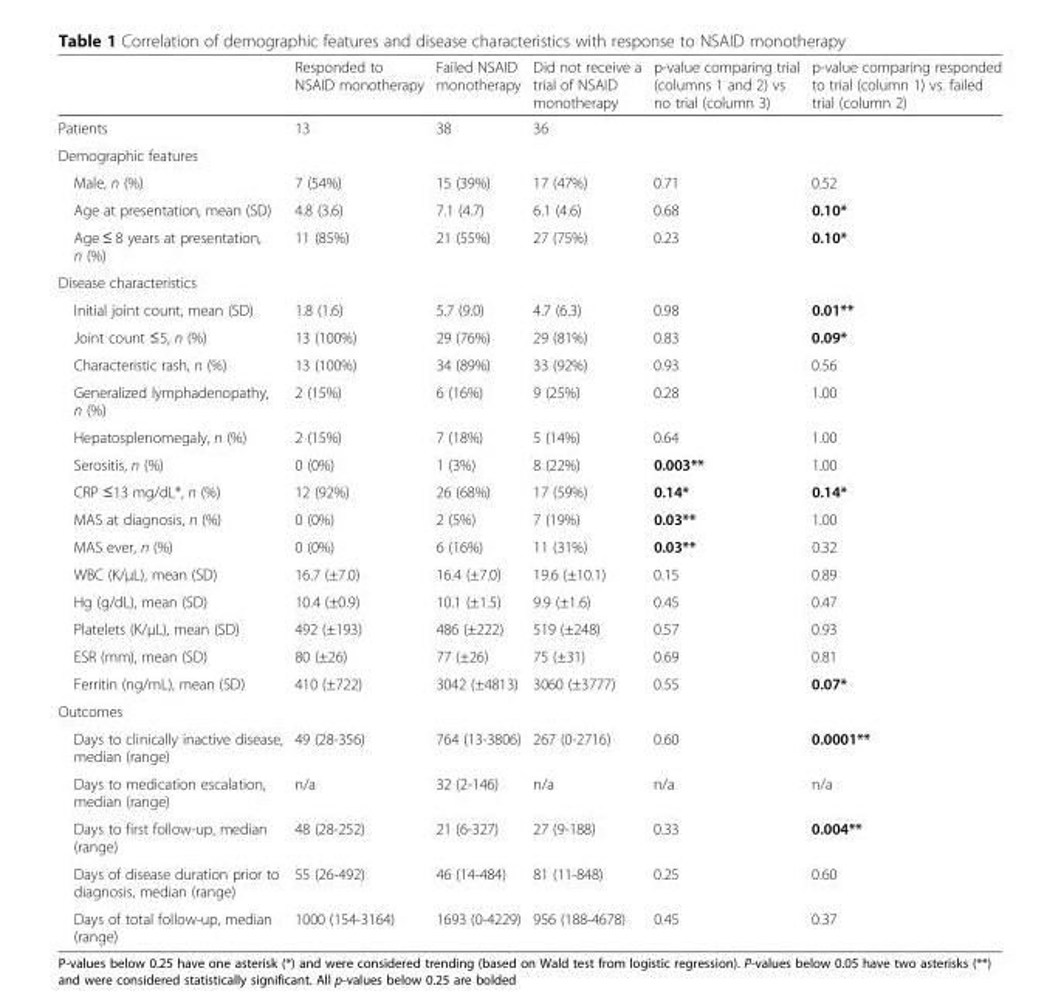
<table><thead><tr><td></td><td>Responded to NSAID monotherapy</td><td>Failed NSAID monotherapy</td><td>Did not receive a trial of NSAID monotherapy</td><td>p-value comparing trial (columns 1 and 2) vs no trial (column 3)</td><td>p-value comparing responded to trial (column 1) vs. failed trial (column 2)</td></tr></thead><tbody><tr><td>Patients</td><td>13</td><td>38</td><td>36</td><td></td><td></td></tr><tr><td colspan="6">Demographic features</td></tr><tr><td>Male, n (%)</td><td>7 (54%)</td><td>15 (39%)</td><td>17 (47%)</td><td>0.71</td><td>0.52</td></tr><tr><td>Age at presentation, mean (SD)</td><td>4.8 (3.6)</td><td>7.1 (4.7)</td><td>6.1 (4.6)</td><td>0.68</td><td>0.10*</td></tr><tr><td>Age ≤ 8 years at presentation, n (%)</td><td>11 (85%)</td><td>21 (55%)</td><td>27 (75%)</td><td>0.23</td><td>0.10*</td></tr><tr><td colspan="6">Disease characteristics</td></tr><tr><td>Initial joint count, mean (SD)</td><td>1.8 (1.6)</td><td>5.7 (9.0)</td><td>4.7 (6.3)</td><td>0.98</td><td>0.01**</td></tr><tr><td>Joint count ≤5, n (%)</td><td>13 (100%)</td><td>29 (76%)</td><td>29 (81%)</td><td>0.83</td><td>0.09*</td></tr><tr><td>Characteristic rash, n (%)</td><td>13 (100%)</td><td>34 (89%)</td><td>33 (92%)</td><td>0.93</td><td>0.56</td></tr><tr><td>Generalized lymphadenopathy, n (%)</td><td>2 (15%)</td><td>6 (16%)</td><td>9 (25%)</td><td>0.28</td><td>1.00</td></tr><tr><td>Hepatosplenomegaly, n (%)</td><td>2 (15%)</td><td>7 (18%)</td><td>5 (14%)</td><td>0.64</td><td>1.00</td></tr><tr><td>Serositis, n (%)</td><td>0 (0%)</td><td>1 (3%)</td><td>8 (22%)</td><td>0.003**</td><td>1.00</td></tr><tr><td>CRP ≤13 mg/dL*, n (%)</td><td>12 (92%)</td><td>26 (68%)</td><td>17 (59%)</td><td>0.14*</td><td>0.14*</td></tr><tr><td>MAS at diagnosis, n (%)</td><td>0 (0%)</td><td>2 (5%)</td><td>7 (19%)</td><td>0.03**</td><td>1.00</td></tr><tr><td>MAS ever, n (%)</td><td>0 (0%)</td><td>6 (16%)</td><td>11 (31%)</td><td>0.03**</td><td>0.32</td></tr><tr><td>WBC (K/μL), mean (SD)</td><td>16.7 (±7.0)</td><td>16.4 (±7.0)</td><td>19.6 (±10.1)</td><td>0.15</td><td>0.89</td></tr><tr><td>Hg (g/dL), mean (SD)</td><td>10.4 (±0.9)</td><td>10.1 (±1.5)</td><td>9.9 (±1.6)</td><td>0.45</td><td>0.47</td></tr><tr><td>Platelets (K/μL), mean (SD)</td><td>492 (±193)</td><td>486 (±222)</td><td>519 (±248)</td><td>0.57</td><td>0.93</td></tr><tr><td>ESR (mm), mean (SD)</td><td>80 (±26)</td><td>77 (±26)</td><td>75 (±31)</td><td>0.69</td><td>0.81</td></tr><tr><td>Ferritin (ng/mL), mean (SD)</td><td>410 (±722)</td><td>3042 (±4813)</td><td>3060 (±3777)</td><td>0.55</td><td>0.07*</td></tr><tr><td colspan="6">Outcomes</td></tr><tr><td>Days to clinically inactive disease, median (range)</td><td>49 (28-356)</td><td>764 (13-3806)</td><td>267 (0-2716)</td><td>0.60</td><td>0.0001**</td></tr><tr><td>Days to medication escalation, median (range)</td><td>n/a</td><td>32 (2-146)</td><td>n/a</td><td>n/a</td><td>n/a</td></tr><tr><td>Days to first follow-up, median (range)</td><td>48 (28-252)</td><td>21 (6-327)</td><td>27 (9-188)</td><td>0.33</td><td>0.004**</td></tr><tr><td>Days of disease duration prior to diagnosis, median (range)</td><td>55 (26-492)</td><td>46 (14-484)</td><td>81 (11-848)</td><td>0.25</td><td>0.60</td></tr><tr><td>Days of total follow-up, median (range)</td><td>1000 (154-3164)</td><td>1693 (0-4229)</td><td>956 (188-4678)</td><td>0.45</td><td>0.37</td></tr></tbody></table>